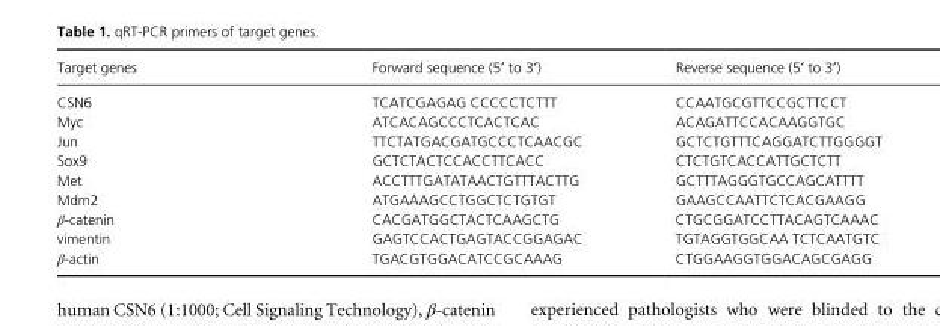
<table><thead><tr><td>Target genes</td><td>Forward sequence (5′ to 3′)</td><td>Reverse sequence (5′ to 3′)</td></tr></thead><tbody><tr><td>CSN6</td><td>TCATCGAGAG CCCCCTCTTT</td><td>CCAATGCGTTCCGCTTCCT</td></tr><tr><td>Myc</td><td>ATCACAGCCCTCACTCAC</td><td>ACAGATTCCACAAGGTGC</td></tr><tr><td>Jun</td><td>TTCTATGACGATGCCCTCAACGC</td><td>GCTCTGTTTCAGGATCTTGGGGT</td></tr><tr><td>Sox9</td><td>GCTCTACTCCACCTTCACC</td><td>CTCTGTCACCATTGCTCTT</td></tr><tr><td>Met</td><td>ACCTTTGATATAACTGTTTACTTG</td><td>GCTTTAGGGTGCCAGCATTTT</td></tr><tr><td>Mdm2</td><td>ATGAAAGCCTGGCTCTGTGT</td><td>GAAGCCAATTCTCACGAAGG</td></tr><tr><td>β- catenin</td><td>CACGATGGCTACTCAAGCTG</td><td>CTGCGGATCCTTACAGTCAAAC</td></tr><tr><td>vimentin</td><td>GAGTCCACTGAGTACCGGAGAC</td><td>TGTAGGTGGCAA TCTCAATGTC</td></tr><tr><td>β- actin</td><td>TGACGTGGACATCCGCAAAG</td><td>CTGGAAGGTGGACAGCGAGG</td></tr></tbody></table>